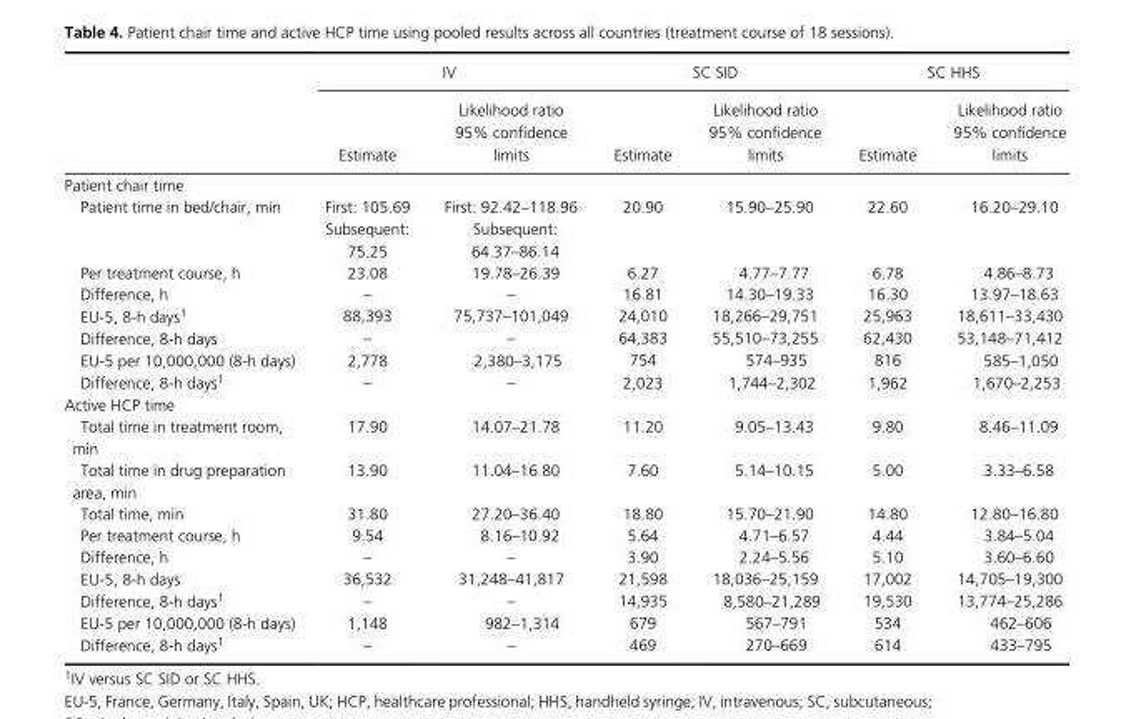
<table><thead><tr><td rowspan="2"></td><td colspan="2">IV</td><td colspan="2">SC SID</td><td colspan="2">SC HHS</td></tr><tr><td>Estimate</td><td>Likelihood ratio 95% confidence limits</td><td>Estimate</td><td>Likelihood ratio 95% confidence limits</td><td>Estimate</td><td>Likelihood ratio 95% confidence limits</td></tr></thead><tbody><tr><td colspan="7">Patient chair time</td></tr><tr><td>Patient time in bed/chair, min</td><td>First: 105.69 Subsequent: 75.25</td><td>First: 92.42–118.96 Subsequent: 64.37–86.14</td><td>20.90</td><td>15.90–25.90</td><td>22.60</td><td>16.20–29.10</td></tr><tr><td>Per treatment course, h</td><td>23.08</td><td>19.78–26.39</td><td>6.27</td><td>4.77–7.77</td><td>6.78</td><td>4.86–8.73</td></tr><tr><td>Difference, h</td><td>–</td><td>–</td><td>16.81</td><td>14.30–19.33</td><td>16.30</td><td>13.97–18.63</td></tr><tr><td>EU- 5, 8- h days1</td><td>88,393</td><td>75,737–101,049</td><td>24,010</td><td>18,266–29,751</td><td>25,963</td><td>18,611–33,430</td></tr><tr><td>Difference, 8- h days</td><td>–</td><td>–</td><td>64,383</td><td>55,510–73,255</td><td>62,430</td><td>53,148–71,412</td></tr><tr><td>EU- 5 per 10,000,000 (8- h days)</td><td>2,778</td><td>2,380–3,175</td><td>754</td><td>574–935</td><td>816</td><td>585–1,050</td></tr><tr><td>Difference, 8- h days1</td><td>–</td><td>–</td><td>2,023</td><td>1,744–2,302</td><td>1,962</td><td>1,670–2,253</td></tr><tr><td colspan="7">Active HCP time</td></tr><tr><td>Total time in treatment room, min</td><td>17.90</td><td>14.07–21.78</td><td>11.20</td><td>9.05–13.43</td><td>9.80</td><td>8.46–11.09</td></tr><tr><td>Total time in drug preparation area, min</td><td>13.90</td><td>11.04–16.80</td><td>7.60</td><td>5.14–10.15</td><td>5.00</td><td>3.33–6.58</td></tr><tr><td>Total time, min</td><td>31.80</td><td>27.20–36.40</td><td>18.80</td><td>15.70–21.90</td><td>14.80</td><td>12.80–16.80</td></tr><tr><td>Per treatment course, h</td><td>9.54</td><td>8.16–10.92</td><td>5.64</td><td>4.71–6.57</td><td>4.44</td><td>3.84–5.04</td></tr><tr><td>Difference, h</td><td>–</td><td>–</td><td>3.90</td><td>2.24–5.56</td><td>5.10</td><td>3.60–6.60</td></tr><tr><td>EU- 5, 8- h days</td><td>36,532</td><td>31,248–41,817</td><td>21,598</td><td>18,036–25,159</td><td>17,002</td><td>14,705–19,300</td></tr><tr><td>Difference, 8- h days1</td><td>–</td><td>–</td><td>14,935</td><td>8,580–21,289</td><td>19,530</td><td>13,774–25,286</td></tr><tr><td>EU- 5 per 10,000,000 (8- h days)</td><td>1,148</td><td>982–1,314</td><td>679</td><td>567–791</td><td>534</td><td>462–606</td></tr><tr><td>Difference, 8- h days1</td><td>–</td><td>–</td><td>469</td><td>270–669</td><td>614</td><td>433–795</td></tr></tbody></table>